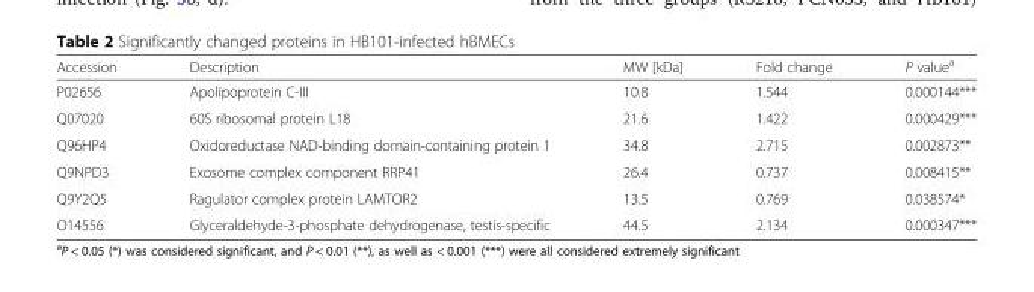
<table><thead><tr><td>Accession</td><td>Description</td><td>MW [kDa]</td><td>Fold change</td><td>P value<sup>a</sup></td></tr></thead><tbody><tr><td>P02656</td><td>Apolipoprotein C-III</td><td>10.8</td><td>1.544</td><td>0.000144***</td></tr><tr><td>Q07020</td><td>60S ribosomal protein L18</td><td>21.6</td><td>1.422</td><td>0.000429***</td></tr><tr><td>Q96HP4</td><td>Oxidoreductase NAD-binding domain-containing protein 1</td><td>34.8</td><td>2.715</td><td>0.002873**</td></tr><tr><td>Q9NPD3</td><td>Exosome complex component RRP41</td><td>26.4</td><td>0.737</td><td>0.008415**</td></tr><tr><td>Q9Y2Q5</td><td>Ragulator complex protein LAMTOR2</td><td>13.5</td><td>0.769</td><td>0.038574*</td></tr><tr><td>O14556</td><td>Glyceraldehyde-3-phosphate dehydrogenase, testis-specific</td><td>44.5</td><td>2.134</td><td>0.000347***</td></tr></tbody></table>